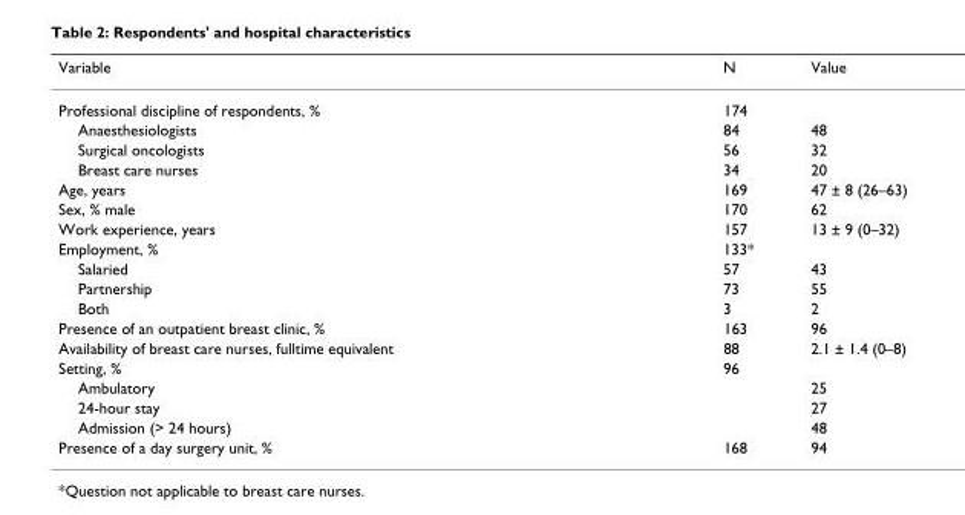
<table><thead><tr><td>Variable</td><td>N</td><td>Value</td></tr></thead><tbody><tr><td>Professional discipline of respondents, %</td><td>174</td><td></td></tr><tr><td>Anaesthesiologists</td><td>84</td><td>48</td></tr><tr><td>Surgical oncologists</td><td>56</td><td>32</td></tr><tr><td>Breast care nurses</td><td>34</td><td>20</td></tr><tr><td>Age, years</td><td>169</td><td>47 ± 8 (26–63)</td></tr><tr><td>Sex, % male</td><td>170</td><td>62</td></tr><tr><td>Work experience, years</td><td>157</td><td>13 ± 9 (0–32)</td></tr><tr><td>Employment, %</td><td>133*</td><td></td></tr><tr><td>Salaried</td><td>57</td><td>43</td></tr><tr><td>Partnership</td><td>73</td><td>55</td></tr><tr><td>Both</td><td>3</td><td>2</td></tr><tr><td>Presence of an outpatient breast clinic, %</td><td>163</td><td>96</td></tr><tr><td>Availability of breast care nurses, fulltime equivalent</td><td>88</td><td>2.1 ± 1.4 (0–8)</td></tr><tr><td>Setting, %</td><td>96</td><td></td></tr><tr><td>Ambulatory</td><td></td><td>25</td></tr><tr><td>24-hour stay</td><td></td><td>27</td></tr><tr><td>Admission (&gt; 24 hours)</td><td></td><td>48</td></tr><tr><td>Presence of a day surgery unit, %</td><td>168</td><td>94</td></tr></tbody></table>